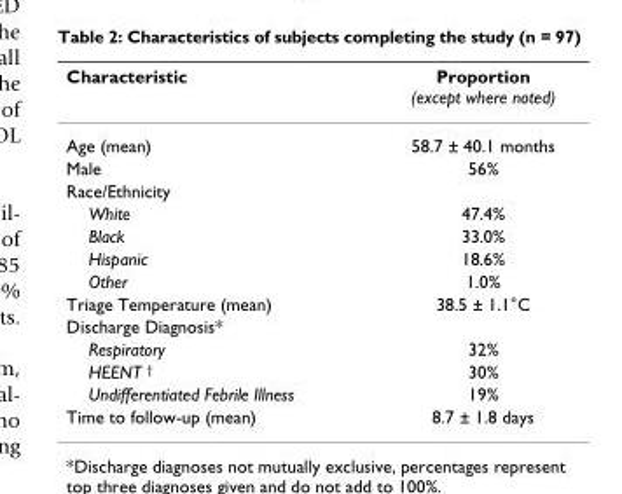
<table><thead><tr><td>Characteristic</td><td>Proportion (except where noted)</td></tr></thead><tbody><tr><td>Age (mean)</td><td>58.7 ± 40.1 months</td></tr><tr><td>Male</td><td>56%</td></tr><tr><td colspan="2">Race/Ethnicity</td></tr><tr><td>White</td><td>47.4%</td></tr><tr><td>Black</td><td>33.0%</td></tr><tr><td>Hispanic</td><td>18.6%</td></tr><tr><td>Other</td><td>1.0%</td></tr><tr><td>Triage Temperature (mean)</td><td>38.5 ± 1.1°C</td></tr><tr><td colspan="2">Discharge Diagnosis*</td></tr><tr><td>Respiratory</td><td>32%</td></tr><tr><td>HEENT <sup>†</sup></td><td>30%</td></tr><tr><td>Undifferentiated Febrile Illness</td><td>19%</td></tr><tr><td>Time to follow-up (mean)</td><td>8.7 ± 1.8 days</td></tr></tbody></table>